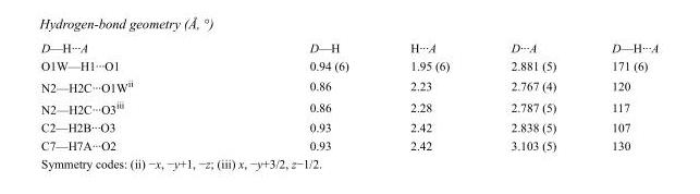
<table><tbody><tr><td>D—H···A</td><td>D—H</td><td>H···A</td><td>D···A</td><td>D—H···A</td></tr><tr><td>O1W—H1···O1</td><td>0.94 (6)</td><td>1.95 (6)</td><td>2.881 (5)</td><td>171 (6)</td></tr><tr><td>N2—H2C···O1W<sup>ii</sup></td><td>0.86</td><td>2.23</td><td>2.767 (4)</td><td>120</td></tr><tr><td>N2—H2C···O3<sup>iii</sup></td><td>0.86</td><td>2.28</td><td>2.787 (5)</td><td>117</td></tr><tr><td>C2—H2B···O3</td><td>0.93</td><td>2.42</td><td>2.838 (5)</td><td>107</td></tr><tr><td>C7—H7A···O2</td><td>0.93</td><td>2.42</td><td>3.103 (5)</td><td>130</td></tr></tbody></table>